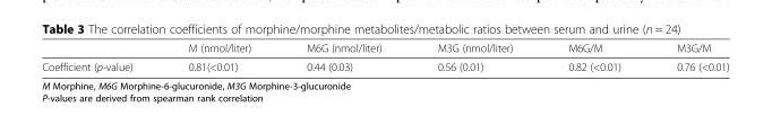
<table><thead><tr><td></td><td>M (nmol/liter)</td><td>M6G (nmol/liter)</td><td>M3G (nmol/liter)</td><td>M6G/M</td><td>M3G/M</td></tr></thead><tbody><tr><td>Coefficient (p-value)</td><td>0.81(&lt;0.01)</td><td>0.44 (0.03)</td><td>0.56 (0.01)</td><td>0.82 (&lt;0.01)</td><td>0.76 (&lt;0.01)</td></tr></tbody></table>